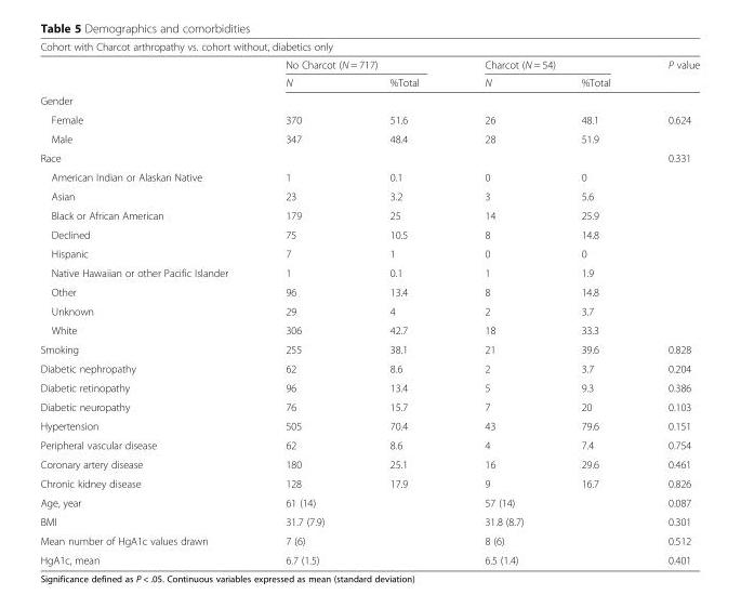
<table><thead><tr><td colspan="6">Cohort with Charcot arthropathy vs. cohort without, diabetics only</td></tr><tr><td rowspan="2"></td><td colspan="2">No Charcot (N = 717)</td><td colspan="2">Charcot (N = 54)</td><td rowspan="2">P value</td></tr><tr><td>N</td><td>%Total</td><td>N</td><td>%Total</td></tr></thead><tbody><tr><td colspan="6">Gender</td></tr><tr><td>Female</td><td>370</td><td>51.6</td><td>26</td><td>48.1</td><td>0.624</td></tr><tr><td>Male</td><td>347</td><td>48.4</td><td>28</td><td>51.9</td><td></td></tr><tr><td>Race</td><td></td><td></td><td></td><td></td><td>0.331</td></tr><tr><td>American Indian or Alaskan Native</td><td>1</td><td>0.1</td><td>0</td><td>0</td><td></td></tr><tr><td>Asian</td><td>23</td><td>3.2</td><td>3</td><td>5.6</td><td></td></tr><tr><td>Black or African American</td><td>179</td><td>25</td><td>14</td><td>25.9</td><td></td></tr><tr><td>Declined</td><td>75</td><td>10.5</td><td>8</td><td>14.8</td><td></td></tr><tr><td>Hispanic</td><td>7</td><td>1</td><td>0</td><td>0</td><td></td></tr><tr><td>Native Hawaiian or other Pacific Islander</td><td>1</td><td>0.1</td><td>1</td><td>1.9</td><td></td></tr><tr><td>Other</td><td>96</td><td>13.4</td><td>8</td><td>14.8</td><td></td></tr><tr><td>Unknown</td><td>29</td><td>4</td><td>2</td><td>3.7</td><td></td></tr><tr><td>White</td><td>306</td><td>42.7</td><td>18</td><td>33.3</td><td></td></tr><tr><td>Smoking</td><td>255</td><td>38.1</td><td>21</td><td>39.6</td><td>0.828</td></tr><tr><td>Diabetic nephropathy</td><td>62</td><td>8.6</td><td>2</td><td>3.7</td><td>0.204</td></tr><tr><td>Diabetic retinopathy</td><td>96</td><td>13.4</td><td>5</td><td>9.3</td><td>0.386</td></tr><tr><td>Diabetic neuropathy</td><td>76</td><td>15.7</td><td>7</td><td>20</td><td>0.103</td></tr><tr><td>Hypertension</td><td>505</td><td>70.4</td><td>43</td><td>79.6</td><td>0.151</td></tr><tr><td>Peripheral vascular disease</td><td>62</td><td>8.6</td><td>4</td><td>7.4</td><td>0.754</td></tr><tr><td>Coronary artery disease</td><td>180</td><td>25.1</td><td>16</td><td>29.6</td><td>0.461</td></tr><tr><td>Chronic kidney disease</td><td>128</td><td>17.9</td><td>9</td><td>16.7</td><td>0.826</td></tr><tr><td>Age, year</td><td>61 (14)</td><td></td><td>57 (14)</td><td></td><td>0.087</td></tr><tr><td>BMI</td><td>31.7 (7.9)</td><td></td><td>31.8 (8.7)</td><td></td><td>0.301</td></tr><tr><td>Mean number of HgA1c values drawn</td><td>7 (6)</td><td></td><td>8 (6)</td><td></td><td>0.512</td></tr><tr><td>HgA1c, mean</td><td>6.7 (1.5)</td><td></td><td>6.5 (1.4)</td><td></td><td>0.401</td></tr></tbody></table>